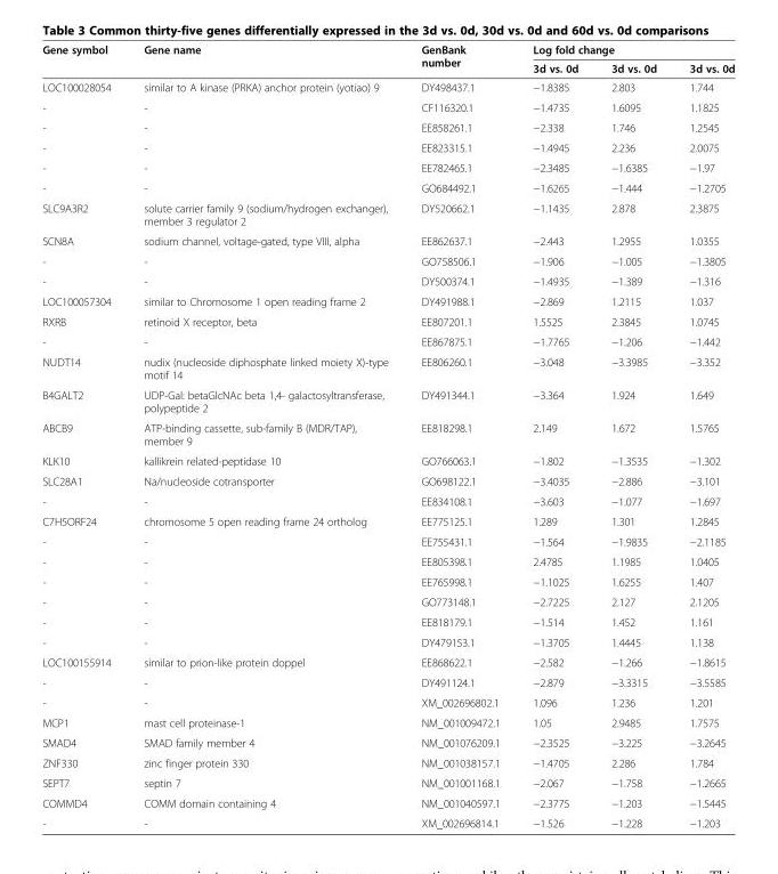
<table><thead><tr><td rowspan="2">Gene symbol</td><td rowspan="2">Gene name</td><td rowspan="2">GenBank number</td><td colspan="3">Log fold change</td></tr><tr><td>3d vs. 0d</td><td>3d vs. 0d</td><td>3d vs. 0d</td></tr></thead><tbody><tr><td>LOC100028054</td><td>similar to A kinase (PRKA) anchor protein (yotiao) 9</td><td>DY498437.1</td><td>−1.8385</td><td>2.803</td><td>1.744</td></tr><tr><td>-</td><td>-</td><td>CF116320.1</td><td>−1.4735</td><td>1.6095</td><td>1.1825</td></tr><tr><td>-</td><td>-</td><td>EE858261.1</td><td>−2.338</td><td>1.746</td><td>1.2545</td></tr><tr><td>-</td><td>-</td><td>EE823315.1</td><td>−1.4945</td><td>2.236</td><td>2.0075</td></tr><tr><td>-</td><td>-</td><td>EE782465.1</td><td>−2.3485</td><td>−1.6385</td><td>−1.97</td></tr><tr><td>-</td><td>-</td><td>GO684492.1</td><td>−1.6265</td><td>−1.444</td><td>−1.2705</td></tr><tr><td>SLC9A3R2</td><td>solute carrier family 9 (sodium/hydrogen exchanger), member 3 regulator 2</td><td>DY520662.1</td><td>−1.1435</td><td>2.878</td><td>2.3875</td></tr><tr><td>SCN8A</td><td>sodium channel, voltage-gated, type VIII, alpha</td><td>EE862637.1</td><td>−2.443</td><td>1.2955</td><td>1.0355</td></tr><tr><td>-</td><td>-</td><td>GO758506.1</td><td>−1.906</td><td>−1.005</td><td>−1.3805</td></tr><tr><td>-</td><td>-</td><td>DY500374.1</td><td>−1.4935</td><td>−1.389</td><td>−1.316</td></tr><tr><td>LOC100057304</td><td>similar to Chromosome 1 open reading frame 2</td><td>DY491988.1</td><td>−2.869</td><td>1.2115</td><td>1.037</td></tr><tr><td>RXRB</td><td>retinoid X receptor, beta</td><td>EE807201.1</td><td>1.5525</td><td>2.3845</td><td>1.0745</td></tr><tr><td>-</td><td>-</td><td>EE867875.1</td><td>−1.7765</td><td>−1.206</td><td>−1.442</td></tr><tr><td>NUDT14</td><td>nudix (nucleoside diphosphate linked moiety X)-type motif 14</td><td>EE806260.1</td><td>−3.048</td><td>−3.3985</td><td>−3.352</td></tr><tr><td>B4GALT2</td><td>UDP-Gal: betaGlcNAc beta 1,4- galactosyltransferase, polypeptide 2</td><td>DY491344.1</td><td>−3.364</td><td>1.924</td><td>1.649</td></tr><tr><td>ABCB9</td><td>ATP-binding cassette, sub-family B (MDR/TAP), member 9</td><td>EE818298.1</td><td>2.149</td><td>1.672</td><td>1.5765</td></tr><tr><td>KLK10</td><td>kallikrein related-peptidase 10</td><td>GO766063.1</td><td>−1.802</td><td>−1.3535</td><td>−1.302</td></tr><tr><td>SLC28A1</td><td>Na/nucleoside cotransporter</td><td>GO698122.1</td><td>−3.4035</td><td>−2.886</td><td>−3.101</td></tr><tr><td>-</td><td>-</td><td>EE834108.1</td><td>−3.603</td><td>−1.077</td><td>−1.697</td></tr><tr><td>C7H5ORF24</td><td>chromosome 5 open reading frame 24 ortholog</td><td>EE775125.1</td><td>1.289</td><td>1.301</td><td>1.2845</td></tr><tr><td>-</td><td>-</td><td>EE755431.1</td><td>−1.564</td><td>−1.9835</td><td>−2.1185</td></tr><tr><td>-</td><td>-</td><td>EE805398.1</td><td>2.4785</td><td>1.1985</td><td>1.0405</td></tr><tr><td>-</td><td>-</td><td>EE765998.1</td><td>−1.1025</td><td>1.6255</td><td>1.407</td></tr><tr><td>-</td><td>-</td><td>GO773148.1</td><td>−2.7225</td><td>2.127</td><td>2.1205</td></tr><tr><td>-</td><td>-</td><td>EE818179.1</td><td>−1.514</td><td>1.452</td><td>1.161</td></tr><tr><td>-</td><td>-</td><td>DY479153.1</td><td>−1.3705</td><td>1.4445</td><td>1.138</td></tr><tr><td>LOC100155914</td><td>similar to prion-like protein doppel</td><td>EE868622.1</td><td>−2.582</td><td>−1.266</td><td>−1.8615</td></tr><tr><td>-</td><td>-</td><td>DY491124.1</td><td>−2.879</td><td>−3.3315</td><td>−3.5585</td></tr><tr><td>-</td><td>-</td><td>XM_002696802.1</td><td>1.096</td><td>1.236</td><td>1.201</td></tr><tr><td>MCP1</td><td>mast cell proteinase-1</td><td>NM_001009472.1</td><td>1.05</td><td>2.9485</td><td>1.7575</td></tr><tr><td>SMAD4</td><td>SMAD family member 4</td><td>NM_001076209.1</td><td>−2.3525</td><td>−3.225</td><td>−3.2645</td></tr><tr><td>ZNF330</td><td>zinc finger protein 330</td><td>NM_001038157.1</td><td>−1.4705</td><td>2.286</td><td>1.784</td></tr><tr><td>SEPT7</td><td>septin 7</td><td>NM_001001168.1</td><td>−2.067</td><td>−1.758</td><td>−1.2665</td></tr><tr><td>COMMD4</td><td>COMM domain containing 4</td><td>NM_001040597.1</td><td>−2.3775</td><td>−1.203</td><td>−1.5445</td></tr><tr><td>-</td><td>-</td><td>XM_002696814.1</td><td>−1.526</td><td>−1.228</td><td>−1.203</td></tr></tbody></table>